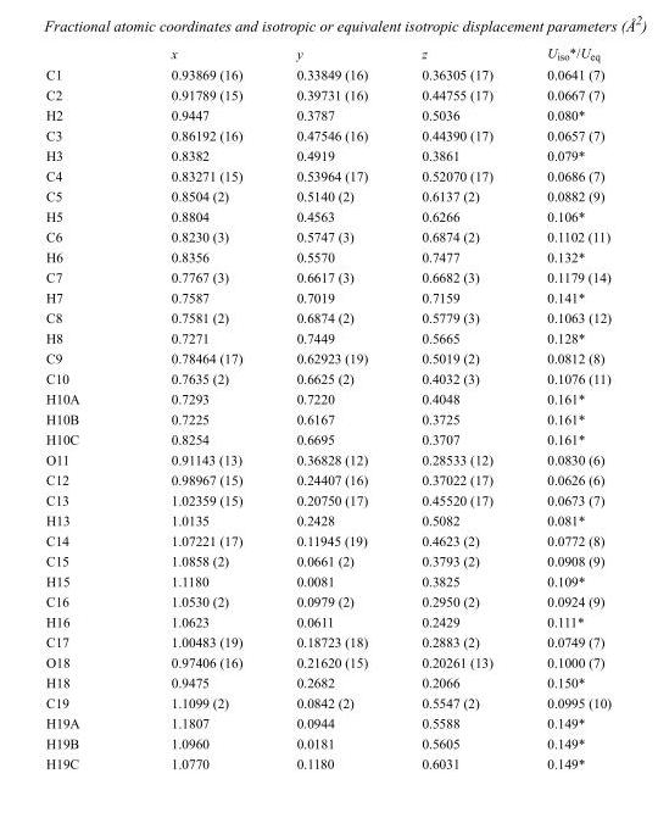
<table><thead><tr><td></td><td>x</td><td>y</td><td>z</td><td>U<sub>iso</sub>*/U<sub>eq</sub></td></tr></thead><tbody><tr><td>C1</td><td>0.93869 (16)</td><td>0.33849 (16)</td><td>0.36305 (17)</td><td>0.0641 (7)</td></tr><tr><td>C2</td><td>0.91789 (15)</td><td>0.39731 (16)</td><td>0.44755 (17)</td><td>0.0667 (7)</td></tr><tr><td>H2</td><td>0.9447</td><td>0.3787</td><td>0.5036</td><td>0.080*</td></tr><tr><td>C3</td><td>0.86192 (16)</td><td>0.47546 (16)</td><td>0.44390 (17)</td><td>0.0657 (7)</td></tr><tr><td>H3</td><td>0.8382</td><td>0.4919</td><td>0.3861</td><td>0.079*</td></tr><tr><td>C4</td><td>0.83271 (15)</td><td>0.53964 (17)</td><td>0.52070 (17)</td><td>0.0686 (7)</td></tr><tr><td>C5</td><td>0.8504 (2)</td><td>0.5140 (2)</td><td>0.6137 (2)</td><td>0.0882 (9)</td></tr><tr><td>H5</td><td>0.8804</td><td>0.4563</td><td>0.6266</td><td>0.106*</td></tr><tr><td>C6</td><td>0.8230 (3)</td><td>0.5747 (3)</td><td>0.6874 (2)</td><td>0.1102 (11)</td></tr><tr><td>H6</td><td>0.8356</td><td>0.5570</td><td>0.7477</td><td>0.132*</td></tr><tr><td>C7</td><td>0.7767 (3)</td><td>0.6617 (3)</td><td>0.6682 (3)</td><td>0.1179 (14)</td></tr><tr><td>H7</td><td>0.7587</td><td>0.7019</td><td>0.7159</td><td>0.141*</td></tr><tr><td>C8</td><td>0.7581 (2)</td><td>0.6874 (2)</td><td>0.5779 (3)</td><td>0.1063 (12)</td></tr><tr><td>H8</td><td>0.7271</td><td>0.7449</td><td>0.5665</td><td>0.128*</td></tr><tr><td>C9</td><td>0.78464 (17)</td><td>0.62923 (19)</td><td>0.5019 (2)</td><td>0.0812 (8)</td></tr><tr><td>C10</td><td>0.7635 (2)</td><td>0.6625 (2)</td><td>0.4032 (3)</td><td>0.1076 (11)</td></tr><tr><td>H10A</td><td>0.7293</td><td>0.7220</td><td>0.4048</td><td>0.161*</td></tr><tr><td>H10B</td><td>0.7225</td><td>0.6167</td><td>0.3725</td><td>0.161*</td></tr><tr><td>H10C</td><td>0.8254</td><td>0.6695</td><td>0.3707</td><td>0.161*</td></tr><tr><td>O11</td><td>0.91143 (13)</td><td>0.36828 (12)</td><td>0.28533 (12)</td><td>0.0830 (6)</td></tr><tr><td>C12</td><td>0.98967 (15)</td><td>0.24407 (16)</td><td>0.37022 (17)</td><td>0.0626 (6)</td></tr><tr><td>C13</td><td>1.02359 (15)</td><td>0.20750 (17)</td><td>0.45520 (17)</td><td>0.0673 (7)</td></tr><tr><td>H13</td><td>1.0135</td><td>0.2428</td><td>0.5082</td><td>0.081*</td></tr><tr><td>C14</td><td>1.07221 (17)</td><td>0.11945 (19)</td><td>0.4623 (2)</td><td>0.0772 (8)</td></tr><tr><td>C15</td><td>1.0858 (2)</td><td>0.0661 (2)</td><td>0.3793 (2)</td><td>0.0908 (9)</td></tr><tr><td>H15</td><td>1.1180</td><td>0.0081</td><td>0.3825</td><td>0.109*</td></tr><tr><td>C16</td><td>1.0530 (2)</td><td>0.0979 (2)</td><td>0.2950 (2)</td><td>0.0924 (9)</td></tr><tr><td>H16</td><td>1.0623</td><td>0.0611</td><td>0.2429</td><td>0.111*</td></tr><tr><td>C17</td><td>1.00483 (19)</td><td>0.18723 (18)</td><td>0.2883 (2)</td><td>0.0749 (7)</td></tr><tr><td>O18</td><td>0.97406 (16)</td><td>0.21620 (15)</td><td>0.20261 (13)</td><td>0.1000 (7)</td></tr><tr><td>H18</td><td>0.9475</td><td>0.2682</td><td>0.2066</td><td>0.150*</td></tr><tr><td>C19</td><td>1.1099 (2)</td><td>0.0842 (2)</td><td>0.5547 (2)</td><td>0.0995 (10)</td></tr><tr><td>H19A</td><td>1.1807</td><td>0.0944</td><td>0.5588</td><td>0.149*</td></tr><tr><td>H19B</td><td>1.0960</td><td>0.0181</td><td>0.5605</td><td>0.149*</td></tr><tr><td>H19C</td><td>1.0770</td><td>0.1180</td><td>0.6031</td><td>0.149*</td></tr></tbody></table>